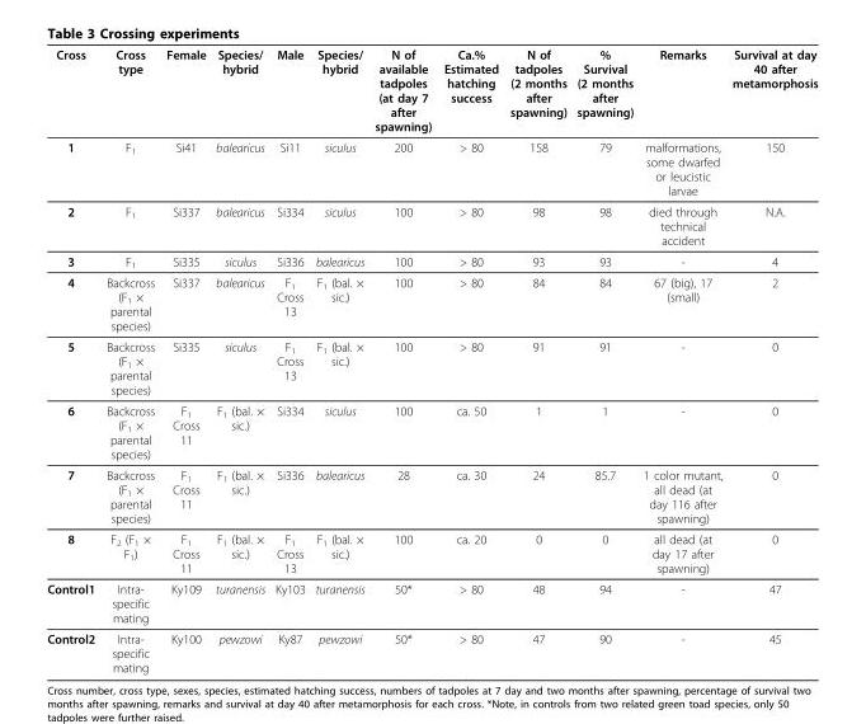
<table><thead><tr><td>Cross</td><td>Cross type</td><td>Female</td><td>Species/ hybrid</td><td>Male</td><td>Species/ hybrid</td><td>N of available tadpoles (at day 7 after spawning)</td><td>Ca.% Estimated hatching success</td><td>N of tadpoles (2 months after spawning)</td><td>% Survival (2 months after spawning)</td><td>Remarks</td><td>Survival at day 40 after metamorphosis</td></tr></thead><tbody><tr><td>1</td><td>F1</td><td>Si41</td><td>balearicus</td><td>Si11</td><td>siculus</td><td>200</td><td>&gt; 80</td><td>158</td><td>79</td><td>malformations, some dwarfed or leucistic larvae</td><td>150</td></tr><tr><td>2</td><td>F1</td><td>Si337</td><td>balearicus</td><td>Si334</td><td>siculus</td><td>100</td><td>&gt; 80</td><td>98</td><td>98</td><td>died through technical accident</td><td>N.A.</td></tr><tr><td>3</td><td>F1</td><td>Si335</td><td>siculus</td><td>Si336</td><td>balearicus</td><td>100</td><td>&gt; 80</td><td>93</td><td>93</td><td>-</td><td>4</td></tr><tr><td>4</td><td>Backcross (F1 × parental species)</td><td>Si337</td><td>balearicus</td><td>F1 Cross 13</td><td>F1 (bal. × sic.)</td><td>100</td><td>&gt; 80</td><td>84</td><td>84</td><td>67 (big), 17 (small)</td><td>2</td></tr><tr><td>5</td><td>Backcross (F1 × parental species)</td><td>Si335</td><td>siculus</td><td>F1 Cross 13</td><td>F1 (bal. × sic.)</td><td>100</td><td>&gt; 80</td><td>91</td><td>91</td><td>-</td><td>0</td></tr><tr><td>6</td><td>Backcross (F1 × parental species)</td><td>F1 Cross 11</td><td>F1 (bal. × sic.)</td><td>Si334</td><td>siculus</td><td>100</td><td>ca. 50</td><td>1</td><td>1</td><td>-</td><td>0</td></tr><tr><td>7</td><td>Backcross (F1 × parental species)</td><td>F1 Cross 11</td><td>F1 (bal. × sic.)</td><td>Si336</td><td>balearicus</td><td>28</td><td>ca. 30</td><td>24</td><td>85.7</td><td>1 color mutant, all dead (at day 116 after spawning)</td><td>0</td></tr><tr><td>8</td><td>F2 (F1 × F1)</td><td>F1 Cross 11</td><td>F1 (bal. × sic.)</td><td>F1 Cross 13</td><td>F1 (bal. × sic.)</td><td>100</td><td>ca. 20</td><td>0</td><td>0</td><td>all dead (at day 17 after spawning)</td><td>0</td></tr><tr><td>Control1</td><td>Intra- specific mating</td><td>Ky109</td><td>turanensis</td><td>Ky103</td><td>turanensis</td><td>50*</td><td>&gt; 80</td><td>48</td><td>94</td><td>-</td><td>47</td></tr><tr><td>Control2</td><td>Intra- specific mating</td><td>Ky100</td><td>pewzowi</td><td>Ky87</td><td>pewzowi</td><td>50*</td><td>&gt; 80</td><td>47</td><td>90</td><td>-</td><td>45</td></tr></tbody></table>